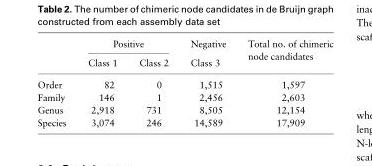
<table><thead><tr><td rowspan="2"></td><td colspan="2">Positive</td><td rowspan="2">Negative Class 3</td><td rowspan="2">Total no. of chimeric node candidates</td></tr><tr><td>Class 1</td><td>Class 2</td></tr></thead><tbody><tr><td>Order</td><td>82</td><td>0</td><td>1,515</td><td>1,597</td></tr><tr><td>Family</td><td>146</td><td>1</td><td>2,456</td><td>2,603</td></tr><tr><td>Genus</td><td>2,918</td><td>731</td><td>8,505</td><td>12,154</td></tr><tr><td>Species</td><td>3,074</td><td>246</td><td>14,589</td><td>17,909</td></tr></tbody></table>